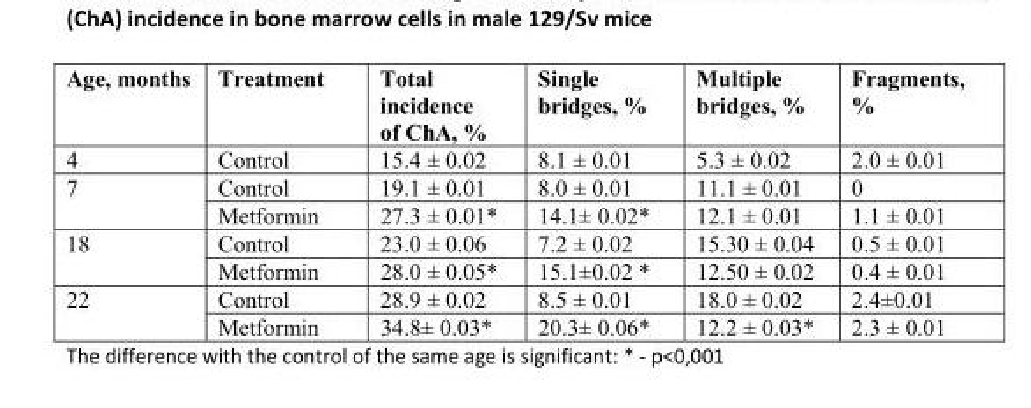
<table><thead><tr><td>Age, months</td><td>Treatment</td><td>Total incidence of ChA, %</td><td>Single bridges, %</td><td>Multiple bridges, %</td><td>Fragments, %</td></tr></thead><tbody><tr><td>4</td><td>Control</td><td>15.4 ± 0.02</td><td>8.1 ± 0.01</td><td>5.3 ± 0.02</td><td>2.0 ± 0.01</td></tr><tr><td rowspan="2">7</td><td>Control</td><td>19.1 ± 0.01</td><td>8.0 ± 0.01</td><td>11.1 ± 0.01</td><td>0</td></tr><tr><td>Metformin</td><td>27.3 ± 0.01*</td><td>14.1± 0.02*</td><td>12.1 ± 0.01</td><td>1.1 ± 0.01</td></tr><tr><td rowspan="2">18</td><td>Control</td><td>23.0 ± 0.06</td><td>7.2 ± 0.02</td><td>15.30 ± 0.04</td><td>0.5 ± 0.01</td></tr><tr><td>Metformin</td><td>28.0 ± 0.05*</td><td>15.1±0.02 *</td><td>12.50 ± 0.02</td><td>0.4 ± 0.01</td></tr><tr><td rowspan="2">22</td><td>Control</td><td>28.9 ± 0.02</td><td>8.5 ± 0.01</td><td>18.0 ± 0.02</td><td>2.4±0.01</td></tr><tr><td>Metformin</td><td>34.8± 0.03*</td><td>20.3± 0.06*</td><td>12.2 ± 0.03*</td><td>2.3 ± 0.01</td></tr></tbody></table>